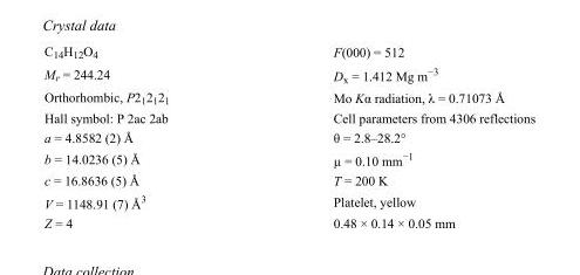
<table><tbody><tr><td>C<sub>14</sub>H<sub>12</sub>O<sub>4</sub></td><td>F(000) = 512</td></tr><tr><td>M<sub>r</sub> = 244.24</td><td>D<sub>x</sub> = 1.412 Mg m<sup>−3</sup></td></tr><tr><td>Orthorhombic, P2<sub>1</sub>2<sub>1</sub>2<sub>1</sub></td><td>Mo Kα radiation, λ = 0.71073 Å</td></tr><tr><td>Hall symbol: P 2ac 2ab</td><td>Cell parameters from 4306 reflections</td></tr><tr><td>a = 4.8582 (2) Å</td><td>θ = 2.8–28.2°</td></tr><tr><td>b = 14.0236 (5) Å</td><td>µ = 0.10 mm<sup>−1</sup></td></tr><tr><td>c = 16.8636 (5) Å</td><td>T = 200 K</td></tr><tr><td>V = 1148.91 (7) Å<sup>3</sup></td><td>Platelet, yellow</td></tr><tr><td>Z = 4</td><td>0.48 × 0.14 × 0.05 mm</td></tr></tbody></table>